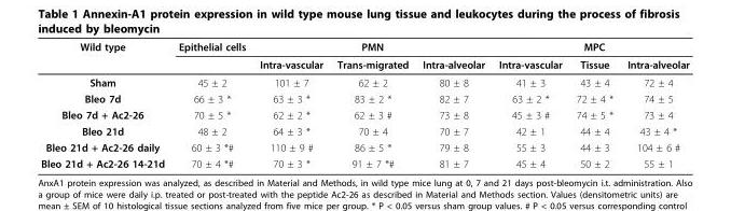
<table><thead><tr><td rowspan="2">Wild type</td><td rowspan="2">Epithelial cells</td><td colspan="3">PMN</td><td colspan="3">MPC</td></tr><tr><td>Intra-vascular</td><td>Trans-migrated</td><td>Intra-alveolar</td><td>Intra-vascular</td><td>Tissue</td><td>Intra-alveolar</td></tr></thead><tbody><tr><td>Sham</td><td>45 ± 2</td><td>101 ± 7</td><td>62 ± 2</td><td>80 ± 8</td><td>41 ± 3</td><td>43 ± 4</td><td>72 ± 4</td></tr><tr><td>Bleo 7d</td><td>66 ± 3 *</td><td>63 ± 3 *</td><td>83 ± 2 *</td><td>82 ± 7</td><td>63 ± 2 *</td><td>72 ± 4 *</td><td>74 ± 5</td></tr><tr><td>Bleo 7d + Ac2-26</td><td>70 ± 5 *</td><td>62 ± 2 *</td><td>62 ± 3 #</td><td>73 ± 8</td><td>45 ± 3 #</td><td>74 ± 5 *</td><td>73 ± 4</td></tr><tr><td>Bleo 21d</td><td>48 ± 2</td><td>64 ± 3 *</td><td>70 ± 4</td><td>70 ± 7</td><td>42 ± 1</td><td>44 ± 4</td><td>43 ± 4 *</td></tr><tr><td>Bleo 21d + Ac2-26 daily</td><td>60 ± 3 *#</td><td>110 ± 9 #</td><td>86 ± 5 *</td><td>79 ± 8</td><td>55 ± 3</td><td>44 ± 3</td><td>104 ± 6 #</td></tr><tr><td>Bleo 21d + Ac2-26 14-21d</td><td>70 ± 4 *#</td><td>70 ± 3 *</td><td>91 ± 7 *#</td><td>81 ± 7</td><td>45 ± 4</td><td>50 ± 2</td><td>55 ± 1</td></tr></tbody></table>